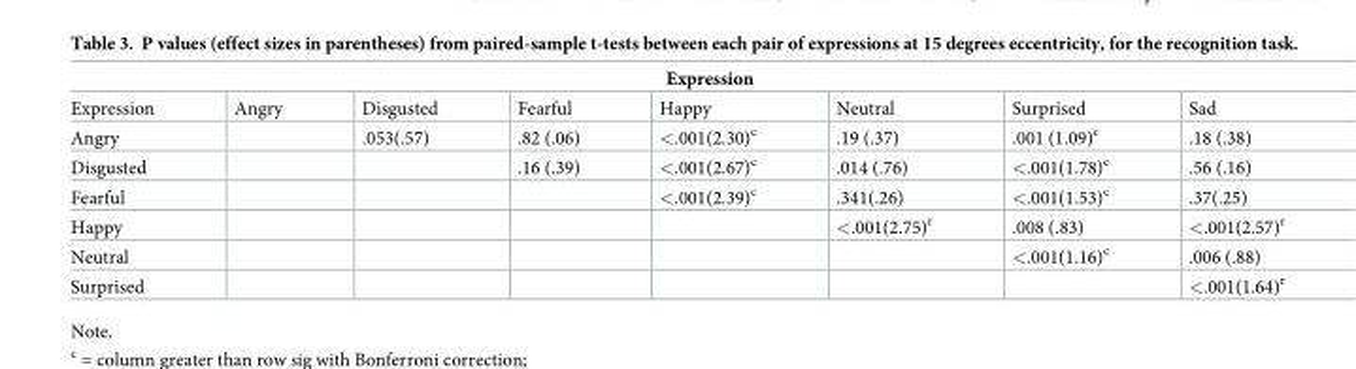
<table><thead><tr><td colspan="8">Expression</td></tr><tr><td>Expression</td><td>Angry</td><td>Disgusted</td><td>Fearful</td><td>Happy</td><td>Neutral</td><td>Surprised</td><td>Sad</td></tr></thead><tbody><tr><td>Angry</td><td></td><td>.053(.57)</td><td>.82 (.06)</td><td>&lt;.001(2.30)<sup>c</sup></td><td>.19 (.37)</td><td>.001 (1.09)<sup>c</sup></td><td>.18 (.38)</td></tr><tr><td>Disgusted</td><td></td><td></td><td>.16 (.39)</td><td>&lt;.001(2.67)<sup>c</sup></td><td>.014 (.76)</td><td>&lt;.001(1.78)<sup>c</sup></td><td>.56 (.16)</td></tr><tr><td>Fearful</td><td></td><td></td><td></td><td>&lt;.001(2.39)<sup>c</sup></td><td>.341(.26)</td><td>&lt;.001(1.53)<sup>c</sup></td><td>.37(.25)</td></tr><tr><td>Happy</td><td></td><td></td><td></td><td></td><td>&lt;.001(2.75)<sup>r</sup></td><td>.008 (.83)</td><td>&lt;.001(2.57)<sup>r</sup></td></tr><tr><td>Neutral</td><td></td><td></td><td></td><td></td><td></td><td>&lt;.001(1.16)<sup>c</sup></td><td>.006 (.88)</td></tr><tr><td>Surprised</td><td></td><td></td><td></td><td></td><td></td><td></td><td>&lt;.001(1.64)<sup>r</sup></td></tr></tbody></table>